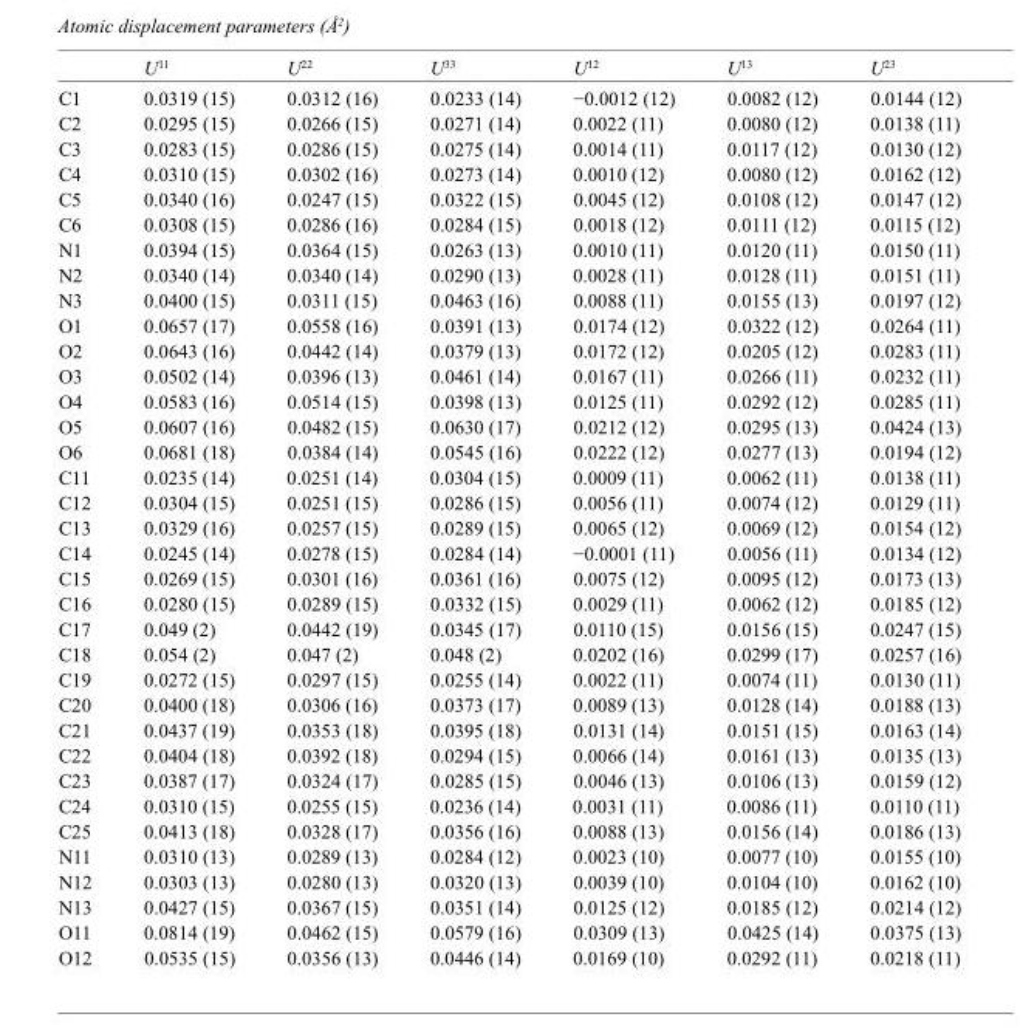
<table><thead><tr><td></td><td>U<sup>11</sup></td><td>U<sup>22</sup></td><td>U<sup>33</sup></td><td>U<sup>12</sup></td><td>U<sup>13</sup></td><td>U<sup>23</sup></td></tr></thead><tbody><tr><td>C1</td><td>0.0319 (15)</td><td>0.0312 (16)</td><td>0.0233 (14)</td><td>−0.0012 (12)</td><td>0.0082 (12)</td><td>0.0144 (12)</td></tr><tr><td>C2</td><td>0.0295 (15)</td><td>0.0266 (15)</td><td>0.0271 (14)</td><td>0.0022 (11)</td><td>0.0080 (12)</td><td>0.0138 (11)</td></tr><tr><td>C3</td><td>0.0283 (15)</td><td>0.0286 (15)</td><td>0.0275 (14)</td><td>0.0014 (11)</td><td>0.0117 (12)</td><td>0.0130 (12)</td></tr><tr><td>C4</td><td>0.0310 (15)</td><td>0.0302 (16)</td><td>0.0273 (14)</td><td>0.0010 (12)</td><td>0.0080 (12)</td><td>0.0162 (12)</td></tr><tr><td>C5</td><td>0.0340 (16)</td><td>0.0247 (15)</td><td>0.0322 (15)</td><td>0.0045 (12)</td><td>0.0108 (12)</td><td>0.0147 (12)</td></tr><tr><td>C6</td><td>0.0308 (15)</td><td>0.0286 (16)</td><td>0.0284 (15)</td><td>0.0018 (12)</td><td>0.0111 (12)</td><td>0.0115 (12)</td></tr><tr><td>N1</td><td>0.0394 (15)</td><td>0.0364 (15)</td><td>0.0263 (13)</td><td>0.0010 (11)</td><td>0.0120 (11)</td><td>0.0150 (11)</td></tr><tr><td>N2</td><td>0.0340 (14)</td><td>0.0340 (14)</td><td>0.0290 (13)</td><td>0.0028 (11)</td><td>0.0128 (11)</td><td>0.0151 (11)</td></tr><tr><td>N3</td><td>0.0400 (15)</td><td>0.0311 (15)</td><td>0.0463 (16)</td><td>0.0088 (11)</td><td>0.0155 (13)</td><td>0.0197 (12)</td></tr><tr><td>O1</td><td>0.0657 (17)</td><td>0.0558 (16)</td><td>0.0391 (13)</td><td>0.0174 (12)</td><td>0.0322 (12)</td><td>0.0264 (11)</td></tr><tr><td>O2</td><td>0.0643 (16)</td><td>0.0442 (14)</td><td>0.0379 (13)</td><td>0.0172 (12)</td><td>0.0205 (12)</td><td>0.0283 (11)</td></tr><tr><td>O3</td><td>0.0502 (14)</td><td>0.0396 (13)</td><td>0.0461 (14)</td><td>0.0167 (11)</td><td>0.0266 (11)</td><td>0.0232 (11)</td></tr><tr><td>O4</td><td>0.0583 (16)</td><td>0.0514 (15)</td><td>0.0398 (13)</td><td>0.0125 (11)</td><td>0.0292 (12)</td><td>0.0285 (11)</td></tr><tr><td>O5</td><td>0.0607 (16)</td><td>0.0482 (15)</td><td>0.0630 (17)</td><td>0.0212 (12)</td><td>0.0295 (13)</td><td>0.0424 (13)</td></tr><tr><td>O6</td><td>0.0681 (18)</td><td>0.0384 (14)</td><td>0.0545 (16)</td><td>0.0222 (12)</td><td>0.0277 (13)</td><td>0.0194 (12)</td></tr><tr><td>C11</td><td>0.0235 (14)</td><td>0.0251 (14)</td><td>0.0304 (15)</td><td>0.0009 (11)</td><td>0.0062 (11)</td><td>0.0138 (11)</td></tr><tr><td>C12</td><td>0.0304 (15)</td><td>0.0251 (15)</td><td>0.0286 (15)</td><td>0.0056 (11)</td><td>0.0074 (12)</td><td>0.0129 (11)</td></tr><tr><td>C13</td><td>0.0329 (16)</td><td>0.0257 (15)</td><td>0.0289 (15)</td><td>0.0065 (12)</td><td>0.0069 (12)</td><td>0.0154 (12)</td></tr><tr><td>C14</td><td>0.0245 (14)</td><td>0.0278 (15)</td><td>0.0284 (14)</td><td>−0.0001 (11)</td><td>0.0056 (11)</td><td>0.0134 (12)</td></tr><tr><td>C15</td><td>0.0269 (15)</td><td>0.0301 (16)</td><td>0.0361 (16)</td><td>0.0075 (12)</td><td>0.0095 (12)</td><td>0.0173 (13)</td></tr><tr><td>C16</td><td>0.0280 (15)</td><td>0.0289 (15)</td><td>0.0332 (15)</td><td>0.0029 (11)</td><td>0.0062 (12)</td><td>0.0185 (12)</td></tr><tr><td>C17</td><td>0.049 (2)</td><td>0.0442 (19)</td><td>0.0345 (17)</td><td>0.0110 (15)</td><td>0.0156 (15)</td><td>0.0247 (15)</td></tr><tr><td>C18</td><td>0.054 (2)</td><td>0.047 (2)</td><td>0.048 (2)</td><td>0.0202 (16)</td><td>0.0299 (17)</td><td>0.0257 (16)</td></tr><tr><td>C19</td><td>0.0272 (15)</td><td>0.0297 (15)</td><td>0.0255 (14)</td><td>0.0022 (11)</td><td>0.0074 (11)</td><td>0.0130 (11)</td></tr><tr><td>C20</td><td>0.0400 (18)</td><td>0.0306 (16)</td><td>0.0373 (17)</td><td>0.0089 (13)</td><td>0.0128 (14)</td><td>0.0188 (13)</td></tr><tr><td>C21</td><td>0.0437 (19)</td><td>0.0353 (18)</td><td>0.0395 (18)</td><td>0.0131 (14)</td><td>0.0151 (15)</td><td>0.0163 (14)</td></tr><tr><td>C22</td><td>0.0404 (18)</td><td>0.0392 (18)</td><td>0.0294 (15)</td><td>0.0066 (14)</td><td>0.0161 (13)</td><td>0.0135 (13)</td></tr><tr><td>C23</td><td>0.0387 (17)</td><td>0.0324 (17)</td><td>0.0285 (15)</td><td>0.0046 (13)</td><td>0.0106 (13)</td><td>0.0159 (12)</td></tr><tr><td>C24</td><td>0.0310 (15)</td><td>0.0255 (15)</td><td>0.0236 (14)</td><td>0.0031 (11)</td><td>0.0086 (11)</td><td>0.0110 (11)</td></tr><tr><td>C25</td><td>0.0413 (18)</td><td>0.0328 (17)</td><td>0.0356 (16)</td><td>0.0088 (13)</td><td>0.0156 (14)</td><td>0.0186 (13)</td></tr><tr><td>N11</td><td>0.0310 (13)</td><td>0.0289 (13)</td><td>0.0284 (12)</td><td>0.0023 (10)</td><td>0.0077 (10)</td><td>0.0155 (10)</td></tr><tr><td>N12</td><td>0.0303 (13)</td><td>0.0280 (13)</td><td>0.0320 (13)</td><td>0.0039 (10)</td><td>0.0104 (10)</td><td>0.0162 (10)</td></tr><tr><td>N13</td><td>0.0427 (15)</td><td>0.0367 (15)</td><td>0.0351 (14)</td><td>0.0125 (12)</td><td>0.0185 (12)</td><td>0.0214 (12)</td></tr><tr><td>O11</td><td>0.0814 (19)</td><td>0.0462 (15)</td><td>0.0579 (16)</td><td>0.0309 (13)</td><td>0.0425 (14)</td><td>0.0375 (13)</td></tr><tr><td>O12</td><td>0.0535 (15)</td><td>0.0356 (13)</td><td>0.0446 (14)</td><td>0.0169 (10)</td><td>0.0292 (11)</td><td>0.0218 (11)</td></tr></tbody></table>